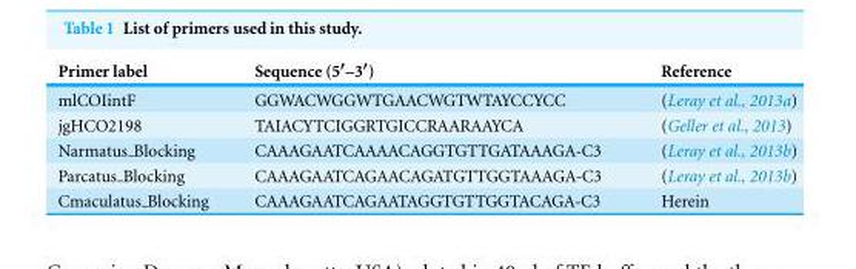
<table><thead><tr><td>Primer label</td><td>Sequence (5′–3′)</td><td>Reference</td></tr></thead><tbody><tr><td>mlCOIintF</td><td>GGWACWGGWTGAACWGTWTAYCCYCC</td><td>(Leray et al., 2013a)</td></tr><tr><td>jgHCO2198</td><td>TAIACYTCIGGRTGICCRAARAAYCA</td><td>(Geller et al., 2013)</td></tr><tr><td>Narmatus Blocking</td><td>CAAAGAATCAAAACAGGTGTTGATAAAGA-C3</td><td>(Leray et al., 2013b)</td></tr><tr><td>Parcatus Blocking</td><td>CAAAGAATCAGAACAGATGTTGGTAAAGA-C3</td><td>(Leray et al., 2013b)</td></tr><tr><td>Cmaculatus Blocking</td><td>CAAAGAATCAGAATAGGTGTTGGTACAGA-C3</td><td>Herein</td></tr></tbody></table>